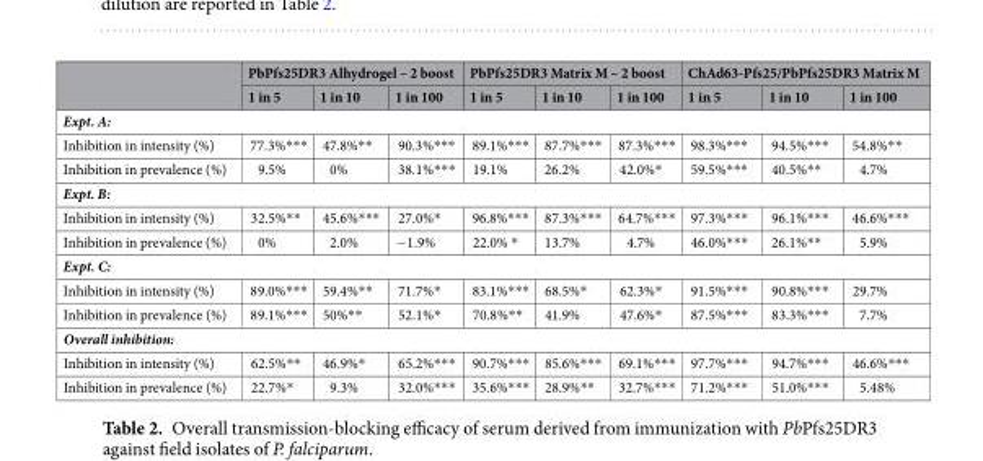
<table><thead><tr><td rowspan="2"></td><td colspan="3">PbPfs25DR3 Alhydrogel – 2 boost</td><td colspan="3">PbPfs25DR3 Matrix M – 2 boost</td><td colspan="3">ChAd63-Pfs25/PbPfs25DR3 Matrix M</td></tr><tr><td>1 in 5</td><td>1 in 10</td><td>1 in 100</td><td>1 in 5</td><td>1 in 10</td><td>1 in 100</td><td>1 in 5</td><td>1 in 10</td><td>1 in 100</td></tr></thead><tbody><tr><td colspan="10">Expt. A:</td></tr><tr><td>Inhibition in intensity (%)</td><td>77.3%***</td><td>47.8%**</td><td>90.3%***</td><td>89.1%***</td><td>87.7%***</td><td>87.3%***</td><td>98.3%***</td><td>94.5%***</td><td>54.8%**</td></tr><tr><td>Inhibition in prevalence (%)</td><td>9.5%</td><td>0%</td><td>38.1%***</td><td>19.1%</td><td>26.2%</td><td>42.0%*</td><td>59.5%***</td><td>40.5%**</td><td>4.7%</td></tr><tr><td colspan="10">Expt. B:</td></tr><tr><td>Inhibition in intensity (%)</td><td>32.5%**</td><td>45.6%***</td><td>27.0%*</td><td>96.8%***</td><td>87.3%***</td><td>64.7%***</td><td>97.3%***</td><td>96.1%***</td><td>46.6%***</td></tr><tr><td>Inhibition in prevalence (%)</td><td>0%</td><td>2.0%</td><td>−1.9%</td><td>22.0% *</td><td>13.7%</td><td>4.7%</td><td>46.0%***</td><td>26.1%**</td><td>5.9%</td></tr><tr><td colspan="10">Expt. C:</td></tr><tr><td>Inhibition in intensity (%)</td><td>89.0%***</td><td>59.4%**</td><td>71.7%*</td><td>83.1%***</td><td>68.5%*</td><td>62.3%*</td><td>91.5%***</td><td>90.8%***</td><td>29.7%</td></tr><tr><td>Inhibition in prevalence (%)</td><td>89.1%***</td><td>50%**</td><td>52.1%*</td><td>70.8%**</td><td>41.9%</td><td>47.6%*</td><td>87.5%***</td><td>83.3%***</td><td>7.7%</td></tr><tr><td colspan="10">Overall inhibition:</td></tr><tr><td>Inhibition in intensity (%)</td><td>62.5%**</td><td>46.9%*</td><td>65.2%***</td><td>90.7%***</td><td>85.6%***</td><td>69.1%***</td><td>97.7%***</td><td>94.7%***</td><td>46.6%***</td></tr><tr><td>Inhibition in prevalence (%)</td><td>22.7%*</td><td>9.3%</td><td>32.0%***</td><td>35.6%***</td><td>28.9%**</td><td>32.7%***</td><td>71.2%***</td><td>51.0%***</td><td>5.48%</td></tr></tbody></table>